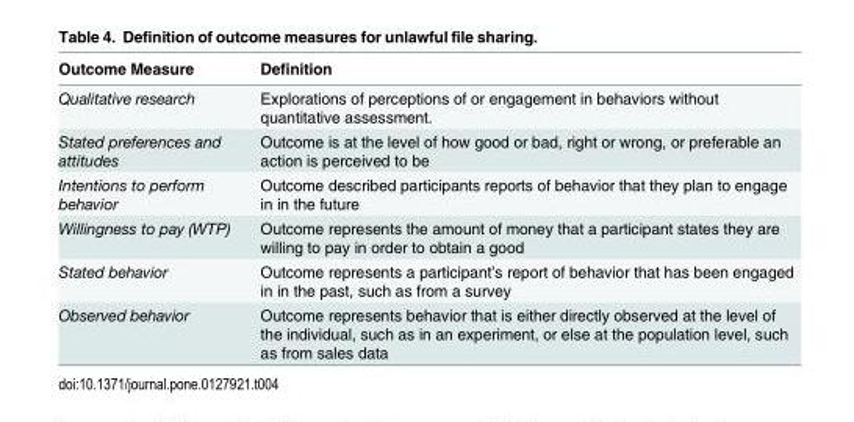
<table><thead><tr><td>Outcome Measure</td><td>Definition</td></tr></thead><tbody><tr><td>Qualitative research</td><td>Explorations of perceptions of or engagement in behaviors without quantitative assessment.</td></tr><tr><td>Stated preferences and attitudes</td><td>Outcome is at the level of how good or bad, right or wrong, or preferable an action is perceived to be</td></tr><tr><td>Intentions to perform behavior</td><td>Outcome described participants reports of behavior that they plan to engage in in the future</td></tr><tr><td>Willingness to pay (WTP)</td><td>Outcome represents the amount of money that a participant states they are willing to pay in order to obtain a good</td></tr><tr><td>Stated behavior</td><td>Outcome represents a participant’s report of behavior that has been engaged in in the past, such as from a survey</td></tr><tr><td>Observed behavior</td><td>Outcome represents behavior that is either directly observed at the level of the individual, such as in an experiment, or else at the population level, such as from sales data</td></tr></tbody></table>